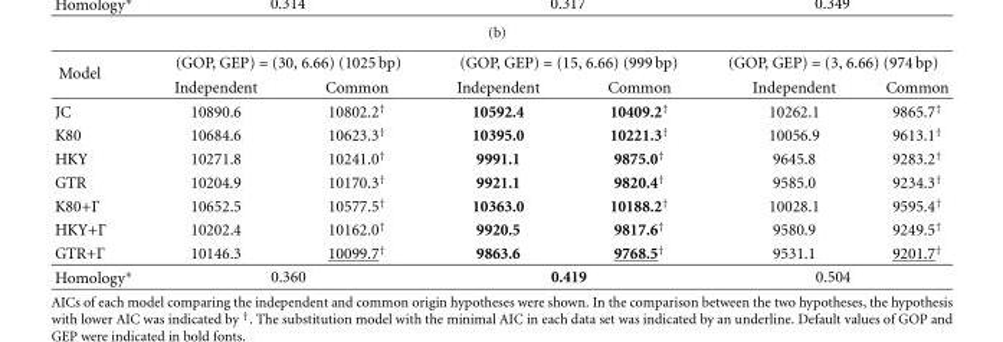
<table><thead><tr><td rowspan="2">Model</td><td colspan="2">(GOP, GEP) = (30, 6.66) (1025 bp)</td><td colspan="2">(GOP, GEP) = (15, 6.66) (999 bp)</td><td colspan="2">(GOP, GEP) = (3, 6.66) (974 bp)</td></tr><tr><td>Independent</td><td>Common</td><td>Independent</td><td>Common</td><td>Independent</td><td>Common</td></tr></thead><tbody><tr><td>JC</td><td>10890.6</td><td>10802.2<sup>†</sup></td><td>10592.4</td><td>10409.2<sup>†</sup></td><td>10262.1</td><td>9865.7<sup>†</sup></td></tr><tr><td>K80</td><td>10684.6</td><td>10623.3<sup>†</sup></td><td>10395.0</td><td>10221.3<sup>†</sup></td><td>10056.9</td><td>9613.1<sup>†</sup></td></tr><tr><td>HKY</td><td>10271.8</td><td>10241.0<sup>†</sup></td><td>9991.1</td><td>9875.0<sup>†</sup></td><td>9645.8</td><td>9283.2<sup>†</sup></td></tr><tr><td>GTR</td><td>10204.9</td><td>10170.3<sup>†</sup></td><td>9921.1</td><td>9820.4<sup>†</sup></td><td>9585.0</td><td>9234.3<sup>†</sup></td></tr><tr><td>K80+Γ</td><td>10652.5</td><td>10577.5<sup>†</sup></td><td>10363.0</td><td>10188.2<sup>†</sup></td><td>10028.1</td><td>9595.4<sup>†</sup></td></tr><tr><td>HKY+Γ</td><td>10202.4</td><td>10162.0<sup>†</sup></td><td>9920.5</td><td>9817.6<sup>†</sup></td><td>9580.9</td><td>9249.5<sup>†</sup></td></tr><tr><td>GTR+Γ</td><td>10146.3</td><td>10099.7<sup>†</sup></td><td>9863.6</td><td>9768.5<sup>†</sup></td><td>9531.1</td><td>9201.7<sup>†</sup></td></tr><tr><td>Homology∗</td><td colspan="2">0.360</td><td colspan="2">0.419</td><td colspan="2">0.504</td></tr></tbody></table>